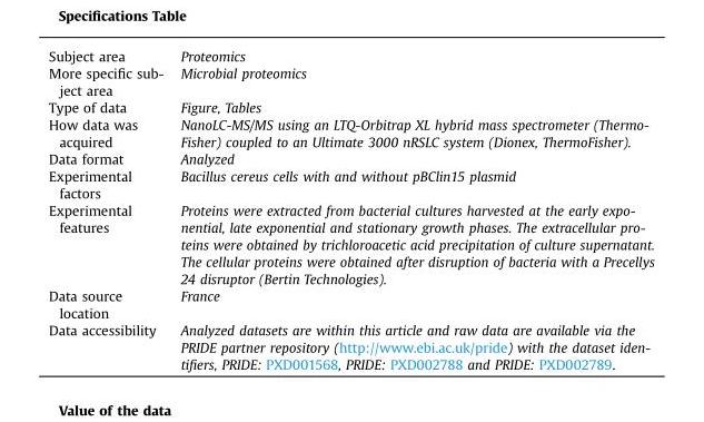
<table><tbody><tr><td>Subject area</td><td>Proteomics</td></tr><tr><td>More specific sub- ject area</td><td>Microbial proteomics</td></tr><tr><td>Type of data</td><td>Figure, Tables</td></tr><tr><td>How data was acquired</td><td>NanoLC-MS/MS using an LTQ-Orbitrap XL hybrid mass spectrometer (Thermo- Fisher) coupled to an Ultimate 3000 nRSLC system (Dionex, ThermoFisher).</td></tr><tr><td>Data format</td><td>Analyzed</td></tr><tr><td>Experimental factors</td><td>Bacillus cereus cells with and without pBClin15 plasmid</td></tr><tr><td>Experimental features</td><td>Proteins were extracted from bacterial cultures harvested at the early expo- nential, late exponential and stationary growth phases. The extracellular pro- teins were obtained by trichloroacetic acid precipitation of culture supernatant. The cellular proteins were obtained after disruption of bacteria with a Precellys 24 disruptor (Bertin Technologies).</td></tr><tr><td>Data source location</td><td>France</td></tr><tr><td>Data accessibility</td><td>Analyzed datasets are within this article and raw data are available via the PRIDE partner repository (http://www.ebi.ac.uk/pride) with the dataset iden- tifiers, PRIDE: PXD001568, PRIDE: PXD002788 and PRIDE: PXD002789.</td></tr></tbody></table>